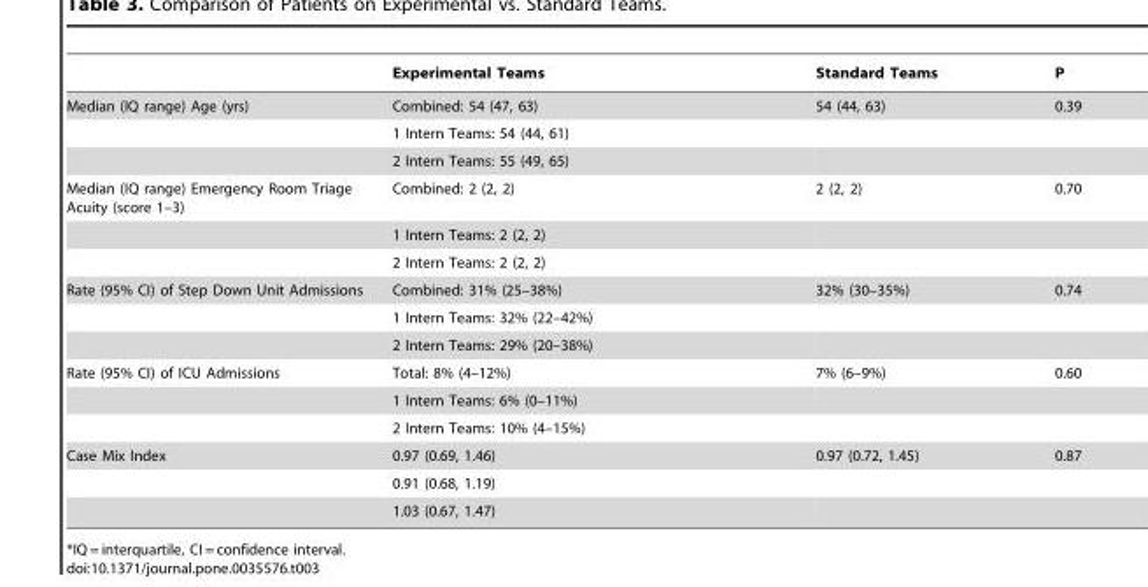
<table><thead><tr><td></td><td>Experimental Teams</td><td>Standard Teams</td><td>P</td></tr></thead><tbody><tr><td rowspan="3">Median (IQ range) Age (yrs)</td><td>Combined: 54 (47, 63)</td><td>54 (44, 63)</td><td>0.39</td></tr><tr><td>1 Intern Teams: 54 (44, 61)</td><td></td><td></td></tr><tr><td>2 Intern Teams: 55 (49, 65)</td><td></td><td></td></tr><tr><td rowspan="3">Median (IQ range) Emergency Room Triage Acuity (score 1–3)</td><td>Combined: 2 (2, 2)</td><td>2 (2, 2)</td><td>0.70</td></tr><tr><td>1 Intern Teams: 2 (2, 2)</td><td></td><td></td></tr><tr><td>2 Intern Teams: 2 (2, 2)</td><td></td><td></td></tr><tr><td rowspan="3">Rate (95% CI) of Step Down Unit Admissions</td><td>Combined: 31% (25–38%)</td><td>32% (30–35%)</td><td>0.74</td></tr><tr><td>1 Intern Teams: 32% (22–42%)</td><td></td><td></td></tr><tr><td>2 Intern Teams: 29% (20–38%)</td><td></td><td></td></tr><tr><td rowspan="3">Rate (95% CI) of ICU Admissions</td><td>Total: 8% (4–12%)</td><td>7% (6–9%)</td><td>0.60</td></tr><tr><td>1 Intern Teams: 6% (0–11%)</td><td></td><td></td></tr><tr><td>2 Intern Teams: 10% (4–15%)</td><td></td><td></td></tr><tr><td rowspan="3">Case Mix Index</td><td>0.97 (0.69, 1.46)</td><td>0.97 (0.72, 1.45)</td><td>0.87</td></tr><tr><td>0.91 (0.68, 1.19)</td><td></td><td></td></tr><tr><td>1.03 (0.67, 1.47)</td><td></td><td></td></tr></tbody></table>